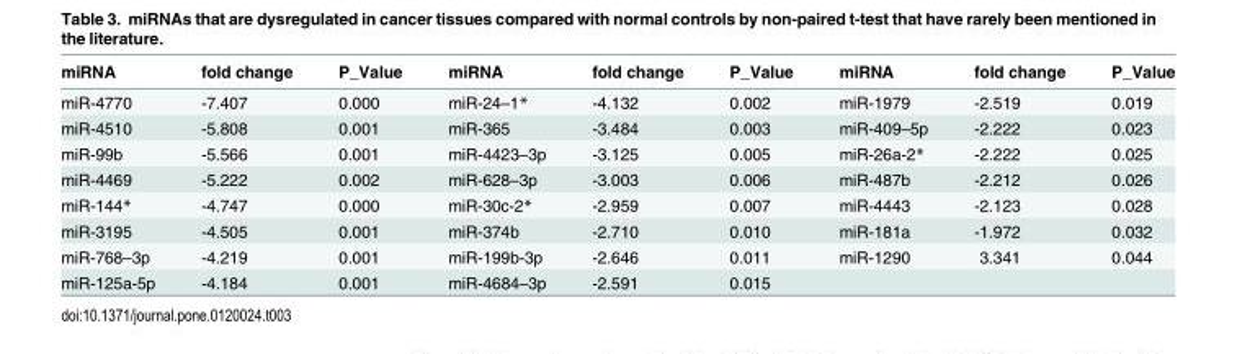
<table><thead><tr><td>miRNA</td><td>fold change</td><td>P_Value</td><td>miRNA</td><td>fold change</td><td>P_Value</td><td>miRNA</td><td>fold change</td><td>P_Value</td></tr></thead><tbody><tr><td>miR-4770</td><td>-7.407</td><td>0.000</td><td>miR-24–1*</td><td>-4.132</td><td>0.002</td><td>miR-1979</td><td>-2.519</td><td>0.019</td></tr><tr><td>miR-4510</td><td>-5.808</td><td>0.001</td><td>miR-365</td><td>-3.484</td><td>0.003</td><td>miR-409–5p</td><td>-2.222</td><td>0.023</td></tr><tr><td>miR-99b</td><td>-5.566</td><td>0.001</td><td>miR-4423–3p</td><td>-3.125</td><td>0.005</td><td>miR-26a-2*</td><td>-2.222</td><td>0.025</td></tr><tr><td>miR-4469</td><td>-5.222</td><td>0.002</td><td>miR-628–3p</td><td>-3.003</td><td>0.006</td><td>miR-487b</td><td>-2.212</td><td>0.026</td></tr><tr><td>miR-144*</td><td>-4.747</td><td>0.000</td><td>miR-30c-2*</td><td>-2.959</td><td>0.007</td><td>miR-4443</td><td>-2.123</td><td>0.028</td></tr><tr><td>miR-3195</td><td>-4.505</td><td>0.001</td><td>miR-374b</td><td>-2.710</td><td>0.010</td><td>miR-181a</td><td>-1.972</td><td>0.032</td></tr><tr><td>miR-768–3p</td><td>-4.219</td><td>0.001</td><td>miR-199b-3p</td><td>-2.646</td><td>0.011</td><td>miR-1290</td><td>3.341</td><td>0.044</td></tr><tr><td>miR-125a-5p</td><td>-4.184</td><td>0.001</td><td>miR-4684–3p</td><td>-2.591</td><td>0.015</td><td></td><td></td><td></td></tr></tbody></table>